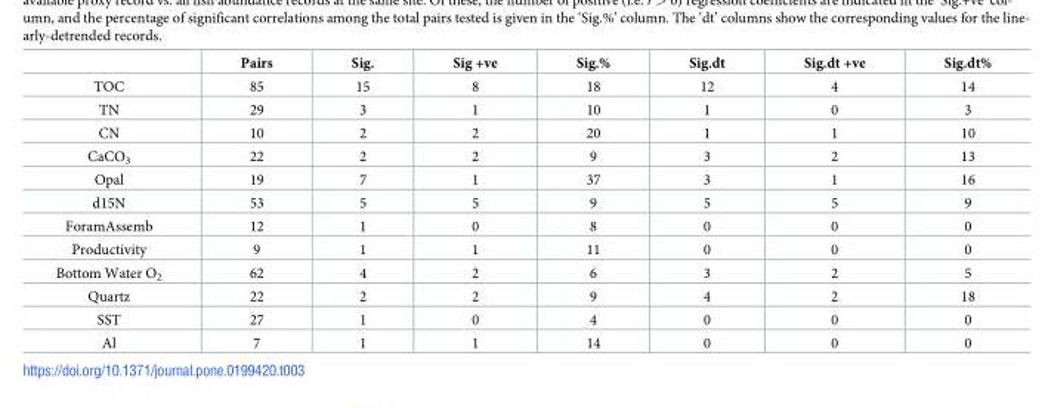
<table><thead><tr><td></td><td>Pairs</td><td>Sig.</td><td>Sig +ve</td><td>Sig.%</td><td>Sig.dt</td><td>Sig.dt +ve</td><td>Sig.dt%</td></tr></thead><tbody><tr><td>TOC</td><td>85</td><td>15</td><td>8</td><td>18</td><td>12</td><td>4</td><td>14</td></tr><tr><td>TN</td><td>29</td><td>3</td><td>1</td><td>10</td><td>1</td><td>0</td><td>3</td></tr><tr><td>CN</td><td>10</td><td>2</td><td>2</td><td>20</td><td>1</td><td>1</td><td>10</td></tr><tr><td>CaCO<sub>3</sub></td><td>22</td><td>2</td><td>2</td><td>9</td><td>3</td><td>2</td><td>13</td></tr><tr><td>Opal</td><td>19</td><td>7</td><td>1</td><td>37</td><td>3</td><td>1</td><td>16</td></tr><tr><td>d15N</td><td>53</td><td>5</td><td>5</td><td>9</td><td>5</td><td>5</td><td>9</td></tr><tr><td>ForamAssemb</td><td>12</td><td>1</td><td>0</td><td>8</td><td>0</td><td>0</td><td>0</td></tr><tr><td>Productivity</td><td>9</td><td>1</td><td>1</td><td>11</td><td>0</td><td>0</td><td>0</td></tr><tr><td>Bottom Water O<sub>2</sub></td><td>62</td><td>4</td><td>2</td><td>6</td><td>3</td><td>2</td><td>5</td></tr><tr><td>Quartz</td><td>22</td><td>2</td><td>2</td><td>9</td><td>4</td><td>2</td><td>18</td></tr><tr><td>SST</td><td>27</td><td>1</td><td>0</td><td>4</td><td>0</td><td>0</td><td>0</td></tr><tr><td>Al</td><td>7</td><td>1</td><td>1</td><td>14</td><td>0</td><td>0</td><td>0</td></tr></tbody></table>